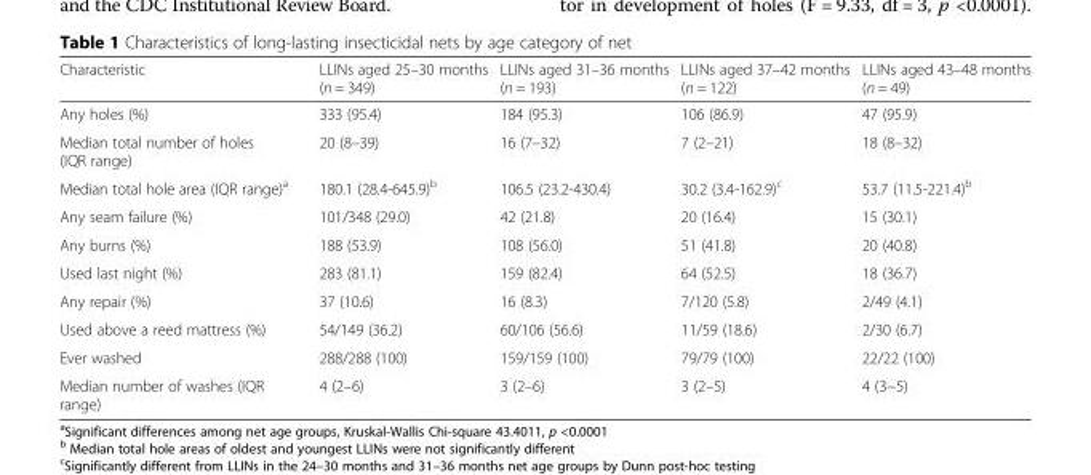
<table><thead><tr><td>Characteristic</td><td>LLINs aged 25–30 months (n = 349)</td><td>LLINs aged 31–36 months (n = 193)</td><td>LLINs aged 37–42 months (n = 122)</td><td>LLINs aged 43–48 months (n = 49)</td></tr></thead><tbody><tr><td>Any holes (%)</td><td>333 (95.4)</td><td>184 (95.3)</td><td>106 (86.9)</td><td>47 (95.9)</td></tr><tr><td>Median total number of holes (IQR range)</td><td>20 (8–39)</td><td>16 (7–32)</td><td>7 (2–21)</td><td>18 (8–32)</td></tr><tr><td>Median total hole area (IQR range)<sup>a</sup></td><td>180.1 (28.4-645.9)<sup>b</sup></td><td>106.5 (23.2-430.4)</td><td>30.2 (3.4-162.9)<sup>c</sup></td><td>53.7 (11.5-221.4)<sup>b</sup></td></tr><tr><td>Any seam failure (%)</td><td>101/348 (29.0)</td><td>42 (21.8)</td><td>20 (16.4)</td><td>15 (30.1)</td></tr><tr><td>Any burns (%)</td><td>188 (53.9)</td><td>108 (56.0)</td><td>51 (41.8)</td><td>20 (40.8)</td></tr><tr><td>Used last night (%)</td><td>283 (81.1)</td><td>159 (82.4)</td><td>64 (52.5)</td><td>18 (36.7)</td></tr><tr><td>Any repair (%)</td><td>37 (10.6)</td><td>16 (8.3)</td><td>7/120 (5.8)</td><td>2/49 (4.1)</td></tr><tr><td>Used above a reed mattress (%)</td><td>54/149 (36.2)</td><td>60/106 (56.6)</td><td>11/59 (18.6)</td><td>2/30 (6.7)</td></tr><tr><td>Ever washed</td><td>288/288 (100)</td><td>159/159 (100)</td><td>79/79 (100)</td><td>22/22 (100)</td></tr><tr><td>Median number of washes (IQR range)</td><td>4 (2–6)</td><td>3 (2–6)</td><td>3 (2–5)</td><td>4 (3−5)</td></tr></tbody></table>